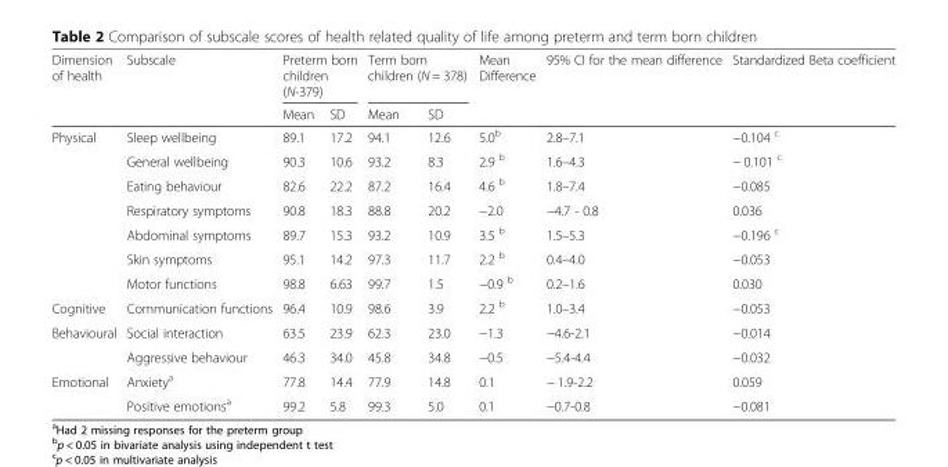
<table><thead><tr><td rowspan="2">Dimension of health</td><td rowspan="2">Subscale</td><td colspan="2">Preterm born children (N-379)</td><td colspan="2">Term born children (N = 378)</td><td rowspan="2">Mean Difference</td><td rowspan="2">95% CI for the mean difference</td><td rowspan="2">Standardized Beta coefficient</td></tr><tr><td>Mean</td><td>SD</td><td>Mean</td><td>SD</td></tr></thead><tbody><tr><td rowspan="7">Physical</td><td>Sleep wellbeing</td><td>89.1</td><td>17.2</td><td>94.1</td><td>12.6</td><td>5.0<sup>b</sup></td><td>2.8–7.1</td><td>−0.104 <sup>c</sup></td></tr><tr><td>General wellbeing</td><td>90.3</td><td>10.6</td><td>93.2</td><td>8.3</td><td>2.9 <sup>b</sup></td><td>1.6–4.3</td><td>− 0.101 <sup>c</sup></td></tr><tr><td>Eating behaviour</td><td>82.6</td><td>22.2</td><td>87.2</td><td>16.4</td><td>4.6 <sup>b</sup></td><td>1.8–7.4</td><td>−0.085</td></tr><tr><td>Respiratory symptoms</td><td>90.8</td><td>18.3</td><td>88.8</td><td>20.2</td><td>−2.0</td><td>−4.7 - 0.8</td><td>0.036</td></tr><tr><td>Abdominal symptoms</td><td>89.7</td><td>15.3</td><td>93.2</td><td>10.9</td><td>3.5 <sup>b</sup></td><td>1.5–5.3</td><td>−0.196 <sup>c</sup></td></tr><tr><td>Skin symptoms</td><td>95.1</td><td>14.2</td><td>97.3</td><td>11.7</td><td>2.2 <sup>b</sup></td><td>0.4–4.0</td><td>−0.053</td></tr><tr><td>Motor functions</td><td>98.8</td><td>6.63</td><td>99.7</td><td>1.5</td><td>−0.9 <sup>b</sup></td><td>0.2–1.6</td><td>0.030</td></tr><tr><td>Cognitive</td><td>Communication functions</td><td>96.4</td><td>10.9</td><td>98.6</td><td>3.9</td><td>2.2 <sup>b</sup></td><td>1.0–3.4</td><td>−0.053</td></tr><tr><td rowspan="2">Behavioural</td><td>Social interaction</td><td>63.5</td><td>23.9</td><td>62.3</td><td>23.0</td><td>−1.3</td><td>−4.6-2.1</td><td>−0.014</td></tr><tr><td>Aggressive behaviour</td><td>46.3</td><td>34.0</td><td>45.8</td><td>34.8</td><td>−0.5</td><td>−5.4-4.4</td><td>−0.032</td></tr><tr><td rowspan="2">Emotional</td><td>Anxiety<sup>a</sup></td><td>77.8</td><td>14.4</td><td>77.9</td><td>14.8</td><td>0.1</td><td>− 1.9-2.2</td><td>0.059</td></tr><tr><td>Positive emotions<sup>a</sup></td><td>99.2</td><td>5.8</td><td>99.3</td><td>5.0</td><td>0.1</td><td>−0.7-0.8</td><td>−0.081</td></tr></tbody></table>